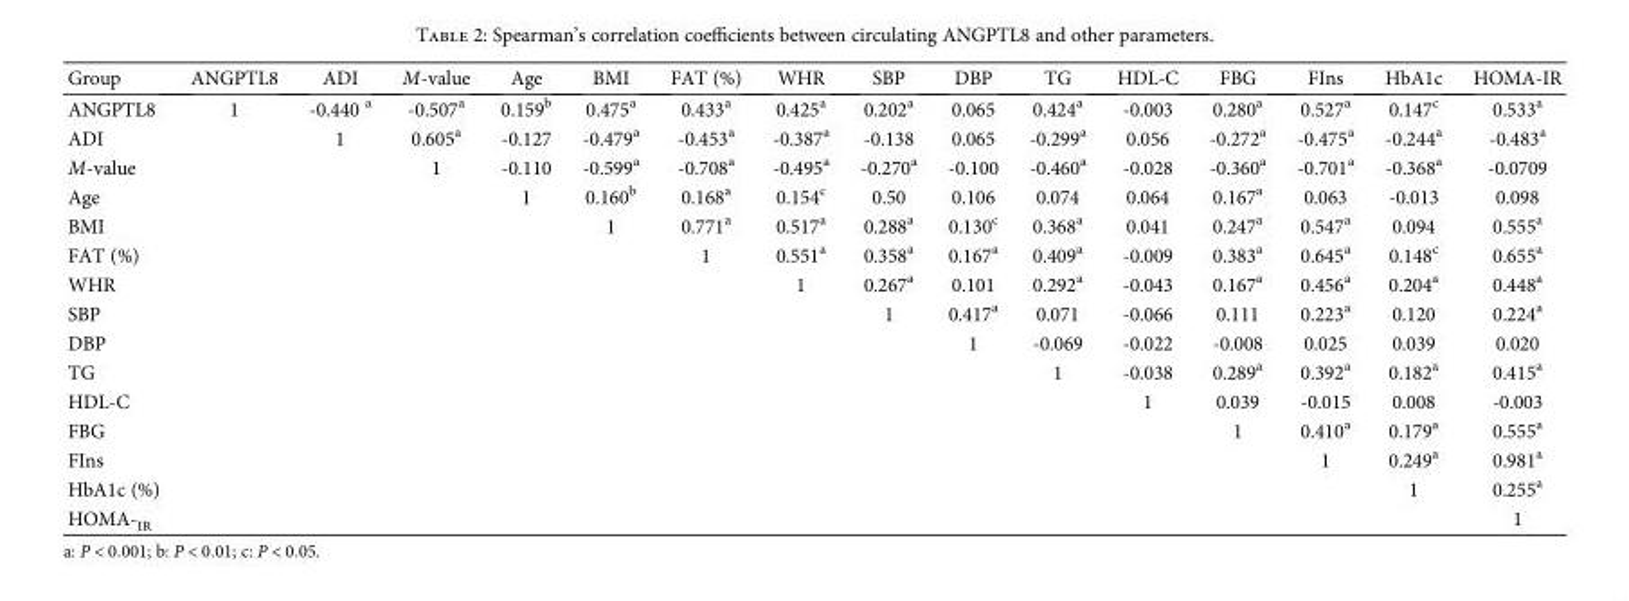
<table><thead><tr><td>Group</td><td>ANGPTL8</td><td>ADI</td><td>M-value</td><td>Age</td><td>BMI</td><td>FAT (%)</td><td>WHR</td><td>SBP</td><td>DBP</td><td>TG</td><td>HDL-C</td><td>FBG</td><td>FIns</td><td>HbA1c</td><td>HOMA-IR</td></tr></thead><tbody><tr><td>ANGPTL8</td><td>1</td><td>-0.440 <sup>a</sup></td><td>-0.507<sup>a</sup></td><td>0.159<sup>b</sup></td><td>0.475<sup>a</sup></td><td>0.433<sup>a</sup></td><td>0.425<sup>a</sup></td><td>0.202<sup>a</sup></td><td>0.065</td><td>0.424<sup>a</sup></td><td>-0.003</td><td>0.280<sup>a</sup></td><td>0.527<sup>a</sup></td><td>0.147<sup>c</sup></td><td>0.533<sup>a</sup></td></tr><tr><td>ADI</td><td></td><td>1</td><td>0.605<sup>a</sup></td><td>-0.127</td><td>-0.479<sup>a</sup></td><td>-0.453<sup>a</sup></td><td>-0.387<sup>a</sup></td><td>-0.138</td><td>0.065</td><td>-0.299<sup>a</sup></td><td>0.056</td><td>-0.272<sup>a</sup></td><td>-0.475<sup>a</sup></td><td>-0.244<sup>a</sup></td><td>-0.483<sup>a</sup></td></tr><tr><td>M-value</td><td></td><td></td><td>1</td><td>-0.110</td><td>-0.599<sup>a</sup></td><td>-0.708<sup>a</sup></td><td>-0.495<sup>a</sup></td><td>-0.270<sup>a</sup></td><td>-0.100</td><td>-0.460<sup>a</sup></td><td>-0.028</td><td>-0.360<sup>a</sup></td><td>-0.701<sup>a</sup></td><td>-0.368<sup>a</sup></td><td>-0.0709</td></tr><tr><td>Age</td><td></td><td></td><td></td><td>1</td><td>0.160<sup>b</sup></td><td>0.168<sup>a</sup></td><td>0.154<sup>c</sup></td><td>0.50</td><td>0.106</td><td>0.074</td><td>0.064</td><td>0.167<sup>a</sup></td><td>0.063</td><td>-0.013</td><td>0.098</td></tr><tr><td>BMI</td><td></td><td></td><td></td><td></td><td>1</td><td>0.771<sup>a</sup></td><td>0.517<sup>a</sup></td><td>0.288<sup>a</sup></td><td>0.130<sup>c</sup></td><td>0.368<sup>a</sup></td><td>0.041</td><td>0.247<sup>a</sup></td><td>0.547<sup>a</sup></td><td>0.094</td><td>0.555<sup>a</sup></td></tr><tr><td>FAT (%)</td><td></td><td></td><td></td><td></td><td></td><td>1</td><td>0.551<sup>a</sup></td><td>0.358<sup>a</sup></td><td>0.167<sup>a</sup></td><td>0.409<sup>a</sup></td><td>-0.009</td><td>0.383<sup>a</sup></td><td>0.645<sup>a</sup></td><td>0.148<sup>c</sup></td><td>0.655<sup>a</sup></td></tr><tr><td>WHR</td><td></td><td></td><td></td><td></td><td></td><td></td><td>1</td><td>0.267<sup>a</sup></td><td>0.101</td><td>0.292<sup>a</sup></td><td>-0.043</td><td>0.167<sup>a</sup></td><td>0.456<sup>a</sup></td><td>0.204<sup>a</sup></td><td>0.448<sup>a</sup></td></tr><tr><td>SBP</td><td></td><td></td><td></td><td></td><td></td><td></td><td></td><td>1</td><td>0.417<sup>a</sup></td><td>0.071</td><td>-0.066</td><td>0.111</td><td>0.223<sup>a</sup></td><td>0.120</td><td>0.224<sup>a</sup></td></tr><tr><td>DBP</td><td></td><td></td><td></td><td></td><td></td><td></td><td></td><td></td><td>1</td><td>-0.069</td><td>-0.022</td><td>-0.008</td><td>0.025</td><td>0.039</td><td>0.020</td></tr><tr><td>TG</td><td></td><td></td><td></td><td></td><td></td><td></td><td></td><td></td><td></td><td>1</td><td>-0.038</td><td>0.289<sup>a</sup></td><td>0.392<sup>a</sup></td><td>0.182<sup>a</sup></td><td>0.415<sup>a</sup></td></tr><tr><td>HDL-C</td><td></td><td></td><td></td><td></td><td></td><td></td><td></td><td></td><td></td><td></td><td>1</td><td>0.039</td><td>-0.015</td><td>0.008</td><td>-0.003</td></tr><tr><td>FBG</td><td></td><td></td><td></td><td></td><td></td><td></td><td></td><td></td><td></td><td></td><td></td><td>1</td><td>0.410<sup>a</sup></td><td>0.179<sup>a</sup></td><td>0.555<sup>a</sup></td></tr><tr><td>FIns</td><td></td><td></td><td></td><td></td><td></td><td></td><td></td><td></td><td></td><td></td><td></td><td></td><td>1</td><td>0.249<sup>a</sup></td><td>0.981<sup>a</sup></td></tr><tr><td>HbA1c (%)</td><td></td><td></td><td></td><td></td><td></td><td></td><td></td><td></td><td></td><td></td><td></td><td></td><td></td><td>1</td><td>0.255<sup>a</sup></td></tr><tr><td>HOMA-<sub>IR</sub></td><td></td><td></td><td></td><td></td><td></td><td></td><td></td><td></td><td></td><td></td><td></td><td></td><td></td><td></td><td>1</td></tr></tbody></table>